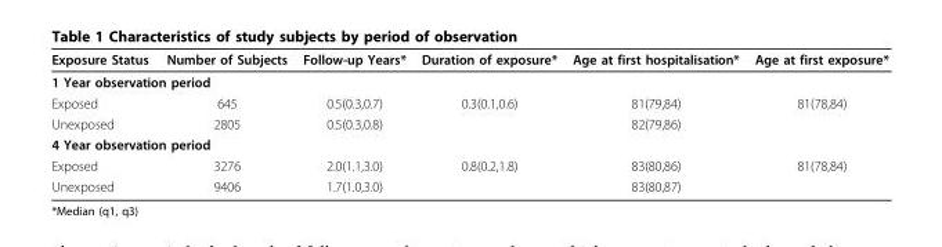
<table><thead><tr><td>Exposure Status</td><td>Number of Subjects</td><td>Follow-up Years*</td><td>Duration of exposure*</td><td>Age at first hospitalisation*</td><td>Age at first exposure*</td></tr></thead><tbody><tr><td colspan="6">1 Year observation period</td></tr><tr><td>Exposed</td><td>645</td><td>0.5(0.3,0.7)</td><td>0.3(0.1,0.6)</td><td>81(79,84)</td><td>81(78,84)</td></tr><tr><td>Unexposed</td><td>2805</td><td>0.5(0.3,0.8)</td><td></td><td>82(79,86)</td><td></td></tr><tr><td colspan="6">4 Year observation period</td></tr><tr><td>Exposed</td><td>3276</td><td>2.0(1.1,3.0)</td><td>0.8(0.2,1.8)</td><td>83(80,86)</td><td>81(78,84)</td></tr><tr><td>Unexposed</td><td>9406</td><td>1.7(1.0,3.0)</td><td></td><td>83(80,87)</td><td></td></tr></tbody></table>